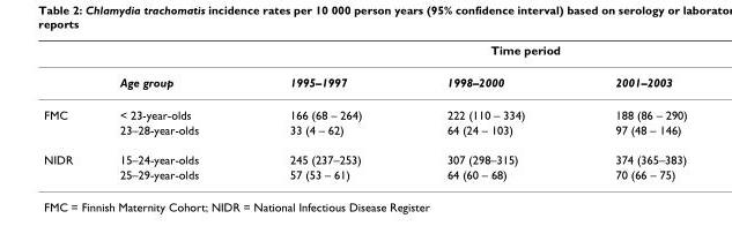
<table><thead><tr><td rowspan="2"></td><td rowspan="2">Age group</td><td colspan="3">Time period</td></tr><tr><td>1995–1997</td><td>1998–2000</td><td>2001–2003</td></tr></thead><tbody><tr><td rowspan="2">FMC</td><td>&lt; 23-year-olds</td><td>166 (68 – 264)</td><td>222 (110 – 334)</td><td>188 (86 – 290)</td></tr><tr><td>23–28-year-olds</td><td>33 (4 – 62)</td><td>64 (24 – 103)</td><td>97 (48 – 146)</td></tr><tr><td rowspan="2">NIDR</td><td>15–24-year-olds</td><td>245 (237–253)</td><td>307 (298–315)</td><td>374 (365–383)</td></tr><tr><td>25–29-year-olds</td><td>57 (53 – 61)</td><td>64 (60 – 68)</td><td>70 (66 – 75)</td></tr></tbody></table>